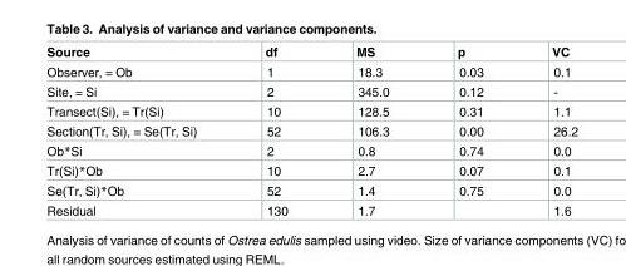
<table><thead><tr><td>Source</td><td>df</td><td>MS</td><td>p</td><td>VC</td></tr></thead><tbody><tr><td>Observer, = Ob</td><td>1</td><td>18.3</td><td>0.03</td><td>0.1</td></tr><tr><td>Site, = Si</td><td>2</td><td>345.0</td><td>0.12</td><td>-</td></tr><tr><td>Transect(Si), = Tr(Si)</td><td>10</td><td>128.5</td><td>0.31</td><td>1.1</td></tr><tr><td>Section(Tr, Si), = Se(Tr, Si)</td><td>52</td><td>106.3</td><td>0.00</td><td>26.2</td></tr><tr><td>Ob*Si</td><td>2</td><td>0.8</td><td>0.74</td><td>0.0</td></tr><tr><td>Tr(Si)*Ob</td><td>10</td><td>2.7</td><td>0.07</td><td>0.1</td></tr><tr><td>Se(Tr, Si)*Ob</td><td>52</td><td>1.4</td><td>0.75</td><td>0.0</td></tr><tr><td>Residual</td><td>130</td><td>1.7</td><td></td><td>1.6</td></tr></tbody></table>